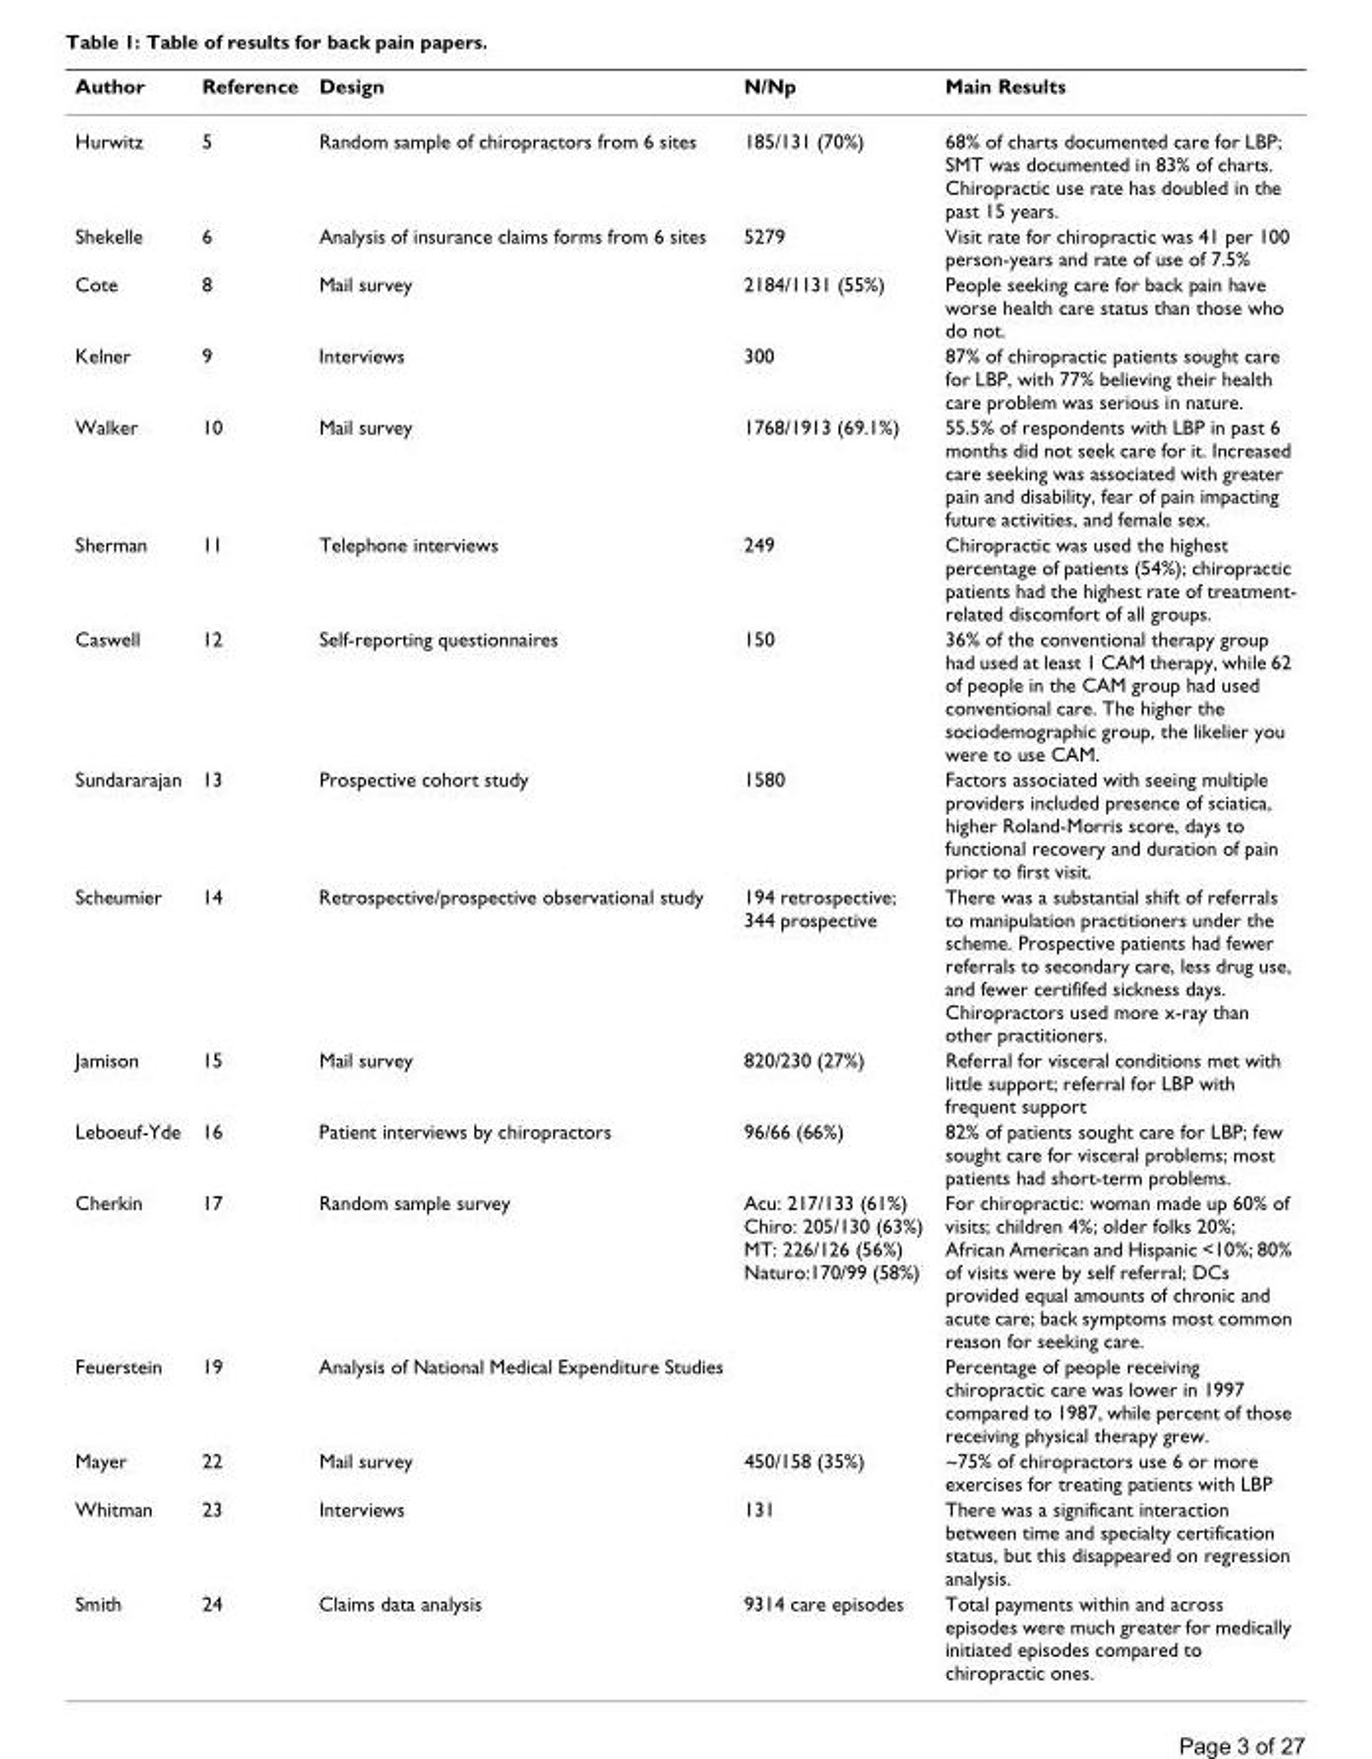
<table><thead><tr><td>Author</td><td>Reference</td><td>Design</td><td>N/Np</td><td>Main Results</td></tr></thead><tbody><tr><td>Hurwitz</td><td>5</td><td>Random sample of chiropractors from 6 sites</td><td>185/131 (70%)</td><td>68% of charts documented care for LBP; SMT was documented in 83% of charts. Chiropractic use rate has doubled in the past 15 years.</td></tr><tr><td>Shekelle</td><td>6</td><td>Analysis of insurance claims forms from 6 sites</td><td>5279</td><td>Visit rate for chiropractic was 41 per 100 person-years and rate of use of 7.5%</td></tr><tr><td>Cote</td><td>8</td><td>Mail survey</td><td>2184/1131 (55%)</td><td>People seeking care for back pain have worse health care status than those who do not.</td></tr><tr><td>Kelner</td><td>9</td><td>Interviews</td><td>300</td><td>87% of chiropractic patients sought care for LBP, with 77% believing their health care problem was serious in nature.</td></tr><tr><td>Walker</td><td>10</td><td>Mail survey</td><td>1768/1913 (69.1%)</td><td>55.5% of respondents with LBP in past 6 months did not seek care for it. Increased care seeking was associated with greater pain and disability, fear of pain impacting future activities, and female sex.</td></tr><tr><td>Sherman</td><td>11</td><td>Telephone interviews</td><td>249</td><td>Chiropractic was used the highest percentage of patients (54%); chiropractic patients had the highest rate of treatment- related discomfort of all groups.</td></tr><tr><td>Caswell</td><td>12</td><td>Self-reporting questionnaires</td><td>150</td><td>36% of the conventional therapy group had used at least 1 CAM therapy, while 62 of people in the CAM group had used conventional care. The higher the sociodemographic group, the likelier you were to use CAM.</td></tr><tr><td>Sundararajan</td><td>13</td><td>Prospective cohort study</td><td>1580</td><td>Factors associated with seeing multiple providers included presence of sciatica, higher Roland-Morris score, days to functional recovery and duration of pain prior to first visit.</td></tr><tr><td>Scheumier</td><td>14</td><td>Retrospective/prospective observational study</td><td>194 retrospective; 344 prospective</td><td>There was a substantial shift of referrals to manipulation practitioners under the scheme. Prospective patients had fewer referrals to secondary care, less drug use, and fewer certififed sickness days. Chiropractors used more x-ray than other practitioners.</td></tr><tr><td>Jamison</td><td>15</td><td>Mail survey</td><td>820/230 (27%)</td><td>Referral for visceral conditions met with little support; referral for LBP with frequent support</td></tr><tr><td>Leboeuf-Yde</td><td>16</td><td>Patient interviews by chiropractors</td><td>96/66 (66%)</td><td>82% of patients sought care for LBP; few sought care for visceral problems; most patients had short-term problems.</td></tr><tr><td>Cherkin</td><td>17</td><td>Random sample survey</td><td>Acu: 217/133 (61%) Chiro: 205/130 (63%) MT: 226/126 (56%) Naturo:170/99 (58%)</td><td>For chiropractic: woman made up 60% of visits; children 4%; older folks 20%; African American and Hispanic &lt;10%; 80% of visits were by self referral; DCs provided equal amounts of chronic and acute care; back symptoms most common reason for seeking care.</td></tr><tr><td>Feuerstein</td><td>19</td><td>Analysis of National Medical Expenditure Studies</td><td></td><td>Percentage of people receiving chiropractic care was lower in 1997 compared to 1987, while percent of those receiving physical therapy grew.</td></tr><tr><td>Mayer</td><td>22</td><td>Mail survey</td><td>450/158 (35%)</td><td>~75% of chiropractors use 6 or more exercises for treating patients with LBP</td></tr><tr><td>Whitman</td><td>23</td><td>Interviews</td><td>131</td><td>There was a significant interaction between time and specialty certification status, but this disappeared on regression analysis.</td></tr><tr><td>Smith</td><td>24</td><td>Claims data analysis</td><td>9314 care episodes</td><td>Total payments within and across episodes were much greater for medically initiated episodes compared to chiropractic ones.</td></tr></tbody></table>